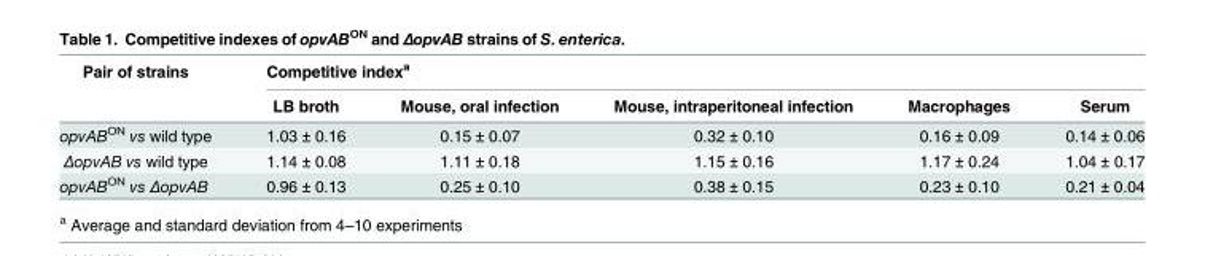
<table><thead><tr><td rowspan="2">Pair of strains</td><td colspan="5">Competitive index<sup>a</sup></td></tr><tr><td>LB broth</td><td>Mouse, oral infection</td><td>Mouse, intraperitoneal infection</td><td>Macrophages</td><td>Serum</td></tr></thead><tbody><tr><td>opvAB<sup>ON</sup> vs wild type</td><td>1.03 ± 0.16</td><td>0.15 ± 0.07</td><td>0.32 ± 0.10</td><td>0.16 ± 0.09</td><td>0.14 ± 0.06</td></tr><tr><td>ΔopvAB vs wild type</td><td>1.14 ± 0.08</td><td>1.11 ± 0.18</td><td>1.15 ± 0.16</td><td>1.17 ± 0.24</td><td>1.04 ± 0.17</td></tr><tr><td>opvAB<sup>ON</sup> vs ΔopvAB</td><td>0.96 ± 0.13</td><td>0.25 ± 0.10</td><td>0.38 ± 0.15</td><td>0.23 ± 0.10</td><td>0.21 ± 0.04</td></tr></tbody></table>